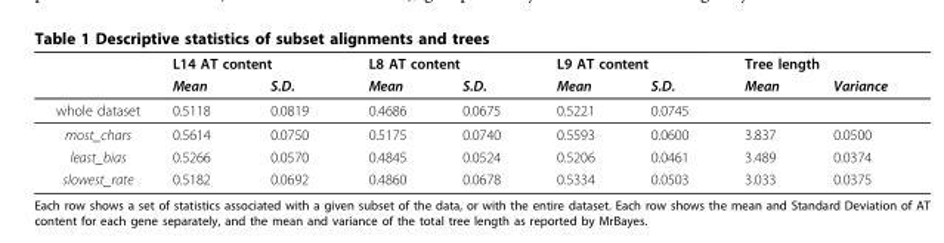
<table><thead><tr><td rowspan="2"></td><td colspan="2">L14 AT content</td><td colspan="2">L8 AT content</td><td colspan="2">L9 AT content</td><td colspan="2">Tree length</td></tr><tr><td>Mean</td><td>S.D.</td><td>Mean</td><td>S.D.</td><td>Mean</td><td>S.D.</td><td>Mean</td><td>Variance</td></tr></thead><tbody><tr><td>whole dataset</td><td>0.5118</td><td>0.0819</td><td>0.4686</td><td>0.0675</td><td>0.5221</td><td>0.0745</td><td></td><td></td></tr><tr><td>most_chars</td><td>0.5614</td><td>0.0750</td><td>0.5175</td><td>0.0740</td><td>0.5593</td><td>0.0600</td><td>3.837</td><td>0.0500</td></tr><tr><td>least_bias</td><td>0.5266</td><td>0.0570</td><td>0.4845</td><td>0.0524</td><td>0.5206</td><td>0.0461</td><td>3.489</td><td>0.0374</td></tr><tr><td>slowest_rate</td><td>0.5182</td><td>0.0692</td><td>0.4860</td><td>0.0678</td><td>0.5334</td><td>0.0503</td><td>3.033</td><td>0.0375</td></tr></tbody></table>